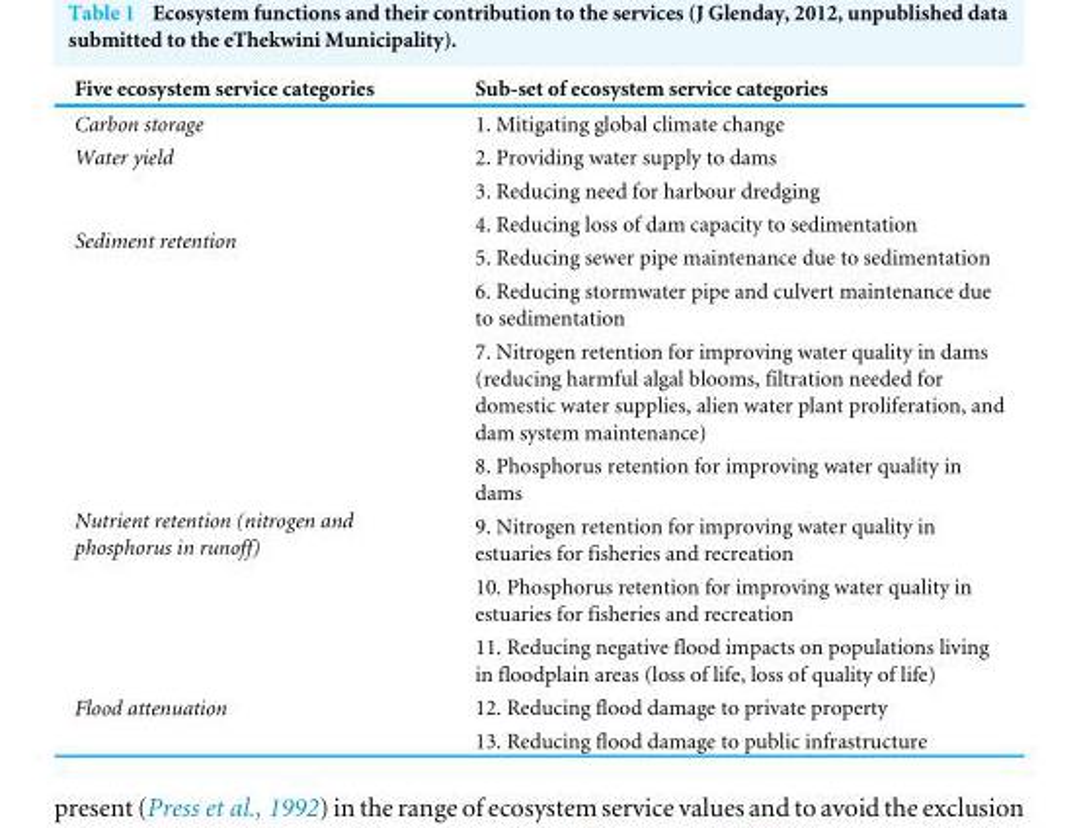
<table><thead><tr><td>Five ecosystem service categories</td><td>Sub-set of ecosystem service categories</td></tr></thead><tbody><tr><td>Carbon storage</td><td>1. Mitigating global climate change</td></tr><tr><td>Water yield</td><td>2. Providing water supply to dams</td></tr><tr><td rowspan="4">Sediment retention</td><td>3. Reducing need for harbour dredging</td></tr><tr><td>4. Reducing loss of dam capacity to sedimentation</td></tr><tr><td>5. Reducing sewer pipe maintenance due to sedimentation</td></tr><tr><td>6. Reducing stormwater pipe and culvert maintenance due to sedimentation</td></tr><tr><td rowspan="4">Nutrient retention (nitrogen and phosphorus in runoff)</td><td>7. Nitrogen retention for improving water quality in dams (reducing harmful algal blooms, filtration needed for domestic water supplies, alien water plant proliferation, and dam system maintenance)</td></tr><tr><td>8. Phosphorus retention for improving water quality in dams</td></tr><tr><td>9. Nitrogen retention for improving water quality in estuaries for fisheries and recreation</td></tr><tr><td>10. Phosphorus retention for improving water quality in estuaries for fisheries and recreation</td></tr><tr><td rowspan="3">Flood attenuation</td><td>11. Reducing negative flood impacts on populations living in floodplain areas (loss of life, loss of quality of life)</td></tr><tr><td>12. Reducing flood damage to private property</td></tr><tr><td>13. Reducing flood damage to public infrastructure</td></tr></tbody></table>